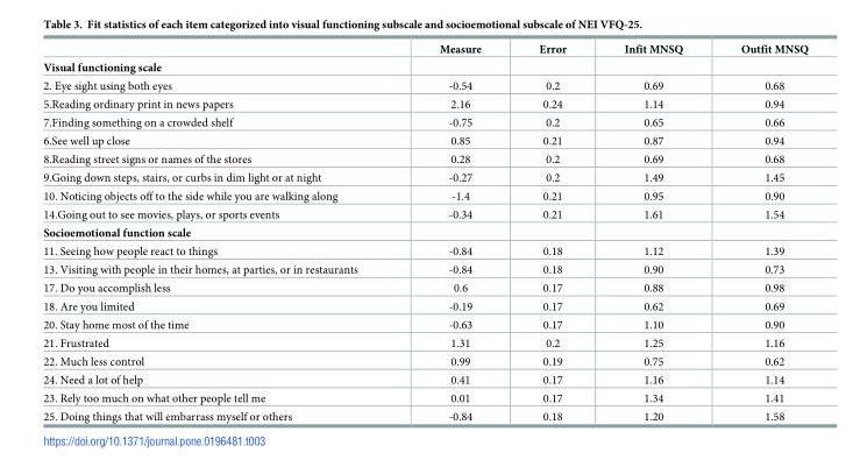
<table><thead><tr><td></td><td>Measure</td><td>Error</td><td>Infit MNSQ</td><td>Outfit MNSQ</td></tr></thead><tbody><tr><td colspan="5">Visual functioning scale</td></tr><tr><td>2. Eye sight using both eyes</td><td>-0.54</td><td>0.2</td><td>0.69</td><td>0.68</td></tr><tr><td>5.Reading ordinary print in news papers</td><td>2.16</td><td>0.24</td><td>1.14</td><td>0.94</td></tr><tr><td>7.Finding something on a crowded shelf</td><td>-0.75</td><td>0.2</td><td>0.65</td><td>0.66</td></tr><tr><td>6.See well up close</td><td>0.85</td><td>0.21</td><td>0.87</td><td>0.94</td></tr><tr><td>8.Reading street signs or names of the stores</td><td>0.28</td><td>0.2</td><td>0.69</td><td>0.68</td></tr><tr><td>9.Going down steps, stairs, or curbs in dim light or at night</td><td>-0.27</td><td>0.2</td><td>1.49</td><td>1.45</td></tr><tr><td>10. Noticing objects off to the side while you are walking along</td><td>-1.4</td><td>0.21</td><td>0.95</td><td>0.90</td></tr><tr><td>14.Going out to see movies, plays, or sports events</td><td>-0.34</td><td>0.21</td><td>1.61</td><td>1.54</td></tr><tr><td colspan="5">Socioemotional function scale</td></tr><tr><td>11. Seeing how people react to things</td><td>-0.84</td><td>0.18</td><td>1.12</td><td>1.39</td></tr><tr><td>13. Visiting with people in their homes, at parties, or in restaurants</td><td>-0.84</td><td>0.18</td><td>0.90</td><td>0.73</td></tr><tr><td>17. Do you accomplish less</td><td>0.6</td><td>0.17</td><td>0.88</td><td>0.98</td></tr><tr><td>18. Are you limited</td><td>-0.19</td><td>0.17</td><td>0.62</td><td>0.69</td></tr><tr><td>20. Stay home most of the time</td><td>-0.63</td><td>0.17</td><td>1.10</td><td>0.90</td></tr><tr><td>21. Frustrated</td><td>1.31</td><td>0.2</td><td>1.25</td><td>1.16</td></tr><tr><td>22. Much less control</td><td>0.99</td><td>0.19</td><td>0.75</td><td>0.62</td></tr><tr><td>24. Need a lot of help</td><td>0.41</td><td>0.17</td><td>1.16</td><td>1.14</td></tr><tr><td>23. Rely too much on what other people tell me</td><td>0.01</td><td>0.17</td><td>1.34</td><td>1.41</td></tr><tr><td>25. Doing things that will embarrass myself or others</td><td>-0.84</td><td>0.18</td><td>1.20</td><td>1.58</td></tr></tbody></table>